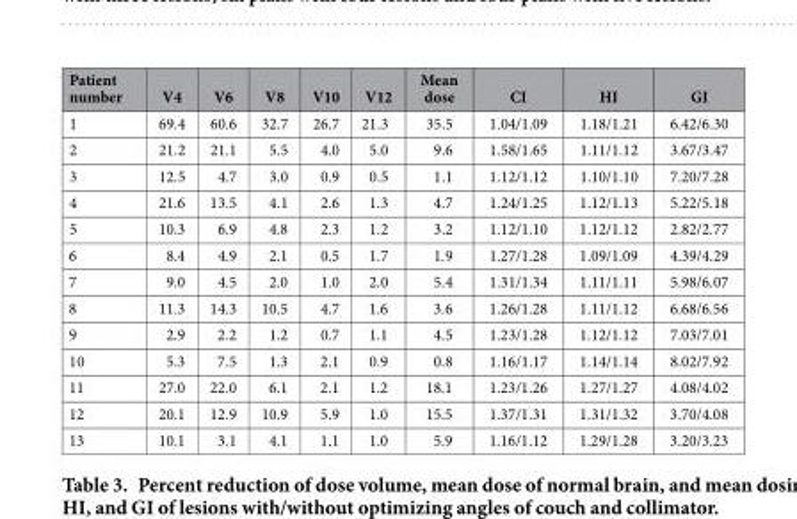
<table><thead><tr><td>Patient number</td><td>V4</td><td>V6</td><td>V8</td><td>V10</td><td>V12</td><td>Mean dose</td><td>CI</td><td>HI</td><td>GI</td></tr></thead><tbody><tr><td>1</td><td>69.4</td><td>60.6</td><td>32.7</td><td>26.7</td><td>21.3</td><td>35.5</td><td>1.04/1.09</td><td>1.18/1.21</td><td>6.42/6.30</td></tr><tr><td>2</td><td>21.2</td><td>21.1</td><td>5.5</td><td>4.0</td><td>5.0</td><td>9.6</td><td>1.58/1.65</td><td>1.11/1.12</td><td>3.67/3.47</td></tr><tr><td>3</td><td>12.5</td><td>4.7</td><td>3.0</td><td>0.9</td><td>0.5</td><td>1.1</td><td>1.12/1.12</td><td>1.10/1.10</td><td>7.20/7.28</td></tr><tr><td>4</td><td>21.6</td><td>13.5</td><td>4.1</td><td>2.6</td><td>1.3</td><td>4.7</td><td>1.24/1.25</td><td>1.12/1.13</td><td>5.22/5.18</td></tr><tr><td>5</td><td>10.3</td><td>6.9</td><td>4.8</td><td>2.3</td><td>1.2</td><td>3.2</td><td>1.12/1.10</td><td>1.12/1.12</td><td>2.82/2.77</td></tr><tr><td>6</td><td>8.4</td><td>4.9</td><td>2.1</td><td>0.5</td><td>1.7</td><td>1.9</td><td>1.27/1.28</td><td>1.09/1.09</td><td>4.39/4.29</td></tr><tr><td>7</td><td>9.0</td><td>4.5</td><td>2.0</td><td>1.0</td><td>2.0</td><td>5.4</td><td>1.31/1.34</td><td>1.11/1.11</td><td>5.98/6.07</td></tr><tr><td>8</td><td>11.3</td><td>14.3</td><td>10.5</td><td>4.7</td><td>1.6</td><td>3.6</td><td>1.26/1.28</td><td>1.11/1.12</td><td>6.68/6.56</td></tr><tr><td>9</td><td>2.9</td><td>2.2</td><td>1.2</td><td>0.7</td><td>1.1</td><td>4.5</td><td>1.23/1.28</td><td>1.12/1.12</td><td>7.03/7.01</td></tr><tr><td>10</td><td>5.3</td><td>7.5</td><td>1.3</td><td>2.1</td><td>0.9</td><td>0.8</td><td>1.16/1.17</td><td>1.14/1.14</td><td>8.02/7.92</td></tr><tr><td>11</td><td>27.0</td><td>22.0</td><td>6.1</td><td>2.1</td><td>1.2</td><td>18.1</td><td>1.23/1.26</td><td>1.27/1.27</td><td>4.08/4.02</td></tr><tr><td>12</td><td>20.1</td><td>12.9</td><td>10.9</td><td>5.9</td><td>1.0</td><td>15.5</td><td>1.37/1.31</td><td>1.31/1.32</td><td>3.70/4.08</td></tr><tr><td>13</td><td>10.1</td><td>3.1</td><td>4.1</td><td>1.1</td><td>1.0</td><td>5.9</td><td>1.16/1.12</td><td>1.29/1.28</td><td>3.20/3.23</td></tr></tbody></table>